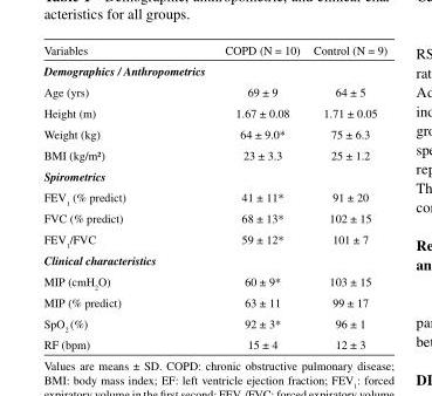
<table><thead><tr><td>Variables</td><td>COPD (N = 10)</td><td>Control (N = 9)</td></tr></thead><tbody><tr><td colspan="3">Demographics / Anthropometrics</td></tr><tr><td>Age (yrs)</td><td>69 ± 9</td><td>64 ± 5</td></tr><tr><td>Height (m)</td><td>1.67 ± 0.08</td><td>1.71 ± 0.05</td></tr><tr><td>Weight (kg)</td><td>64 ± 9.0*</td><td>75 ± 6.3</td></tr><tr><td>BMI (kg/m²)</td><td>23 ± 3.3</td><td>25 ± 1.2</td></tr><tr><td colspan="3">Spirometrics</td></tr><tr><td>FEV<sub>1</sub> (% predict)</td><td>41 ± 11*</td><td>91 ± 20</td></tr><tr><td>FVC (% predict)</td><td>68 ± 13*</td><td>102 ± 15</td></tr><tr><td>FEV<sub>1</sub>/FVC</td><td>59 ± 12*</td><td>101 ± 7</td></tr><tr><td colspan="3">Clinical characteristics</td></tr><tr><td>MIP (cmH<sub>2</sub>O)</td><td>60 ± 9*</td><td>103 ± 15</td></tr><tr><td>MIP (% predict)</td><td>63 ± 11</td><td>99 ± 17</td></tr><tr><td>SpO<sub>2</sub> (%)</td><td>92 ± 3*</td><td>96 ± 1</td></tr><tr><td>RF (bpm)</td><td>15 ± 4</td><td>12 ± 3</td></tr></tbody></table>